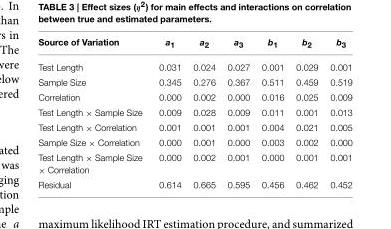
<table><thead><tr><td>Source of Variation</td><td>a<sub>1</sub></td><td>a<sub>2</sub></td><td>a<sub>3</sub></td><td>b<sub>1</sub></td><td>b<sub>2</sub></td><td>b<sub>3</sub></td></tr></thead><tbody><tr><td>Test Length</td><td>0.031</td><td>0.024</td><td>0.027</td><td>0.001</td><td>0.029</td><td>0.001</td></tr><tr><td>Sample Size</td><td>0.345</td><td>0.276</td><td>0.367</td><td>0.511</td><td>0.459</td><td>0.519</td></tr><tr><td>Correlation</td><td>0.000</td><td>0.002</td><td>0.000</td><td>0.016</td><td>0.025</td><td>0.009</td></tr><tr><td>Test Length × Sample Size</td><td>0.009</td><td>0.028</td><td>0.009</td><td>0.011</td><td>0.001</td><td>0.013</td></tr><tr><td>Test Length × Correlation</td><td>0.001</td><td>0.001</td><td>0.001</td><td>0.004</td><td>0.021</td><td>0.005</td></tr><tr><td>Sample Size × Correlation</td><td>0.000</td><td>0.001</td><td>0.000</td><td>0.003</td><td>0.002</td><td>0.000</td></tr><tr><td>Test Length × Sample Size × Correlation</td><td>0.000</td><td>0.002</td><td>0.001</td><td>0.000</td><td>0.001</td><td>0.001</td></tr><tr><td>Residual</td><td>0.614</td><td>0.665</td><td>0.595</td><td>0.456</td><td>0.462</td><td>0.452</td></tr></tbody></table>